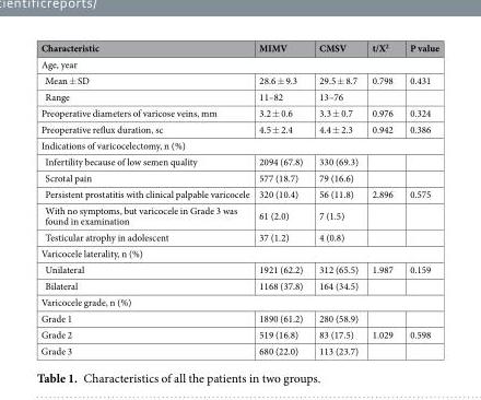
<table><thead><tr><td>Characteristic</td><td>MIMV</td><td>CMSV</td><td>t/X<sup>2</sup></td><td>P value</td></tr></thead><tbody><tr><td colspan="5">Age, year</td></tr><tr><td>Mean ± SD</td><td>28.6 ± 9.3</td><td>29.5 ± 8.7</td><td>0.798</td><td>0.431</td></tr><tr><td>Range</td><td>11–82</td><td>13–76</td><td></td><td></td></tr><tr><td>Preoperative diameters of varicose veins, mm</td><td>3.2 ± 0.6</td><td>3.3 ± 0.7</td><td>0.976</td><td>0.324</td></tr><tr><td>Preoperative reflux duration, sc</td><td>4.5 ± 2.4</td><td>4.4 ± 2.3</td><td>0.942</td><td>0.386</td></tr><tr><td colspan="5">Indications of varicocelectomy, n (%)</td></tr><tr><td>Infertility because of low semen quality</td><td>2094 (67.8)</td><td>330 (69.3)</td><td></td><td></td></tr><tr><td>Scrotal pain</td><td>577 (18.7)</td><td>79 (16.6)</td><td></td><td></td></tr><tr><td>Persistent prostatitis with clinical palpable varicocele</td><td>320 (10.4)</td><td>56 (11.8)</td><td>2.896</td><td>0.575</td></tr><tr><td>With no symptoms, but varicocele in Grade 3 was found in examination</td><td>61 (2.0)</td><td>7 (1.5)</td><td></td><td></td></tr><tr><td>Testicular atrophy in adolescent</td><td>37 (1.2)</td><td>4 (0.8)</td><td></td><td></td></tr><tr><td colspan="5">Varicocele laterality, n (%)</td></tr><tr><td>Unilateral</td><td>1921 (62.2)</td><td>312 (65.5)</td><td>1.987</td><td>0.159</td></tr><tr><td>Bilateral</td><td>1168 (37.8)</td><td>164 (34.5)</td><td></td><td></td></tr><tr><td colspan="5">Varicocele grade, n (%)</td></tr><tr><td>Grade 1</td><td>1890 (61.2)</td><td>280 (58.9)</td><td></td><td></td></tr><tr><td>Grade 2</td><td>519 (16.8)</td><td>83 (17.5)</td><td>1.029</td><td>0.598</td></tr><tr><td>Grade 3</td><td>680 (22.0)</td><td>113 (23.7)</td><td></td><td></td></tr></tbody></table>